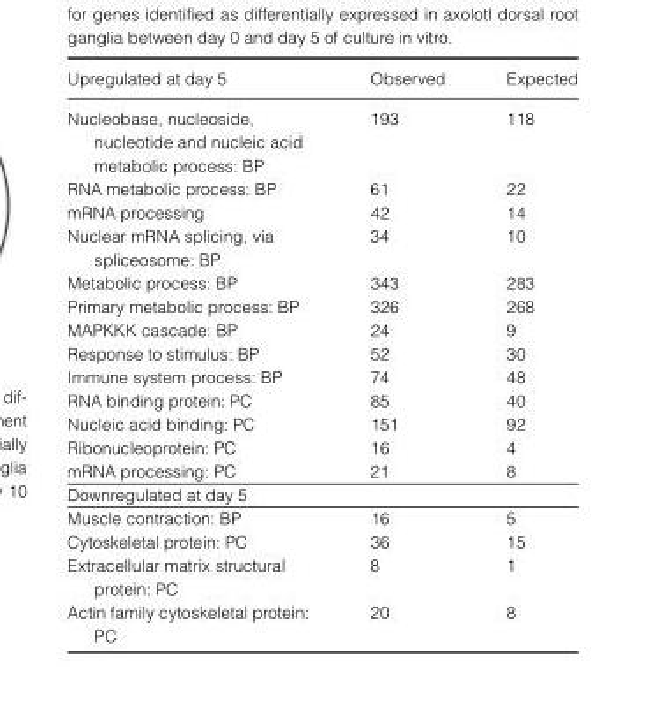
<table><thead><tr><td>Upregulated at day 5</td><td>Observed</td><td>Expected</td></tr></thead><tbody><tr><td>Nucleobase, nucleoside, nucleotide and nucleic acid metabolic process: BP</td><td>193</td><td>118</td></tr><tr><td>RNA metabolic process: BP</td><td>61</td><td>22</td></tr><tr><td>mRNA processing</td><td>42</td><td>14</td></tr><tr><td>Nuclear mRNA splicing, via spliceosome: BP</td><td>34</td><td>10</td></tr><tr><td>Metabolic process: BP</td><td>343</td><td>283</td></tr><tr><td>Primary metabolic process: BP</td><td>326</td><td>268</td></tr><tr><td>MAPKKK cascade: BP</td><td>24</td><td>9</td></tr><tr><td>Response to stimulus: BP</td><td>52</td><td>30</td></tr><tr><td>Immune system process: BP</td><td>74</td><td>48</td></tr><tr><td>RNA binding protein: PC</td><td>85</td><td>40</td></tr><tr><td>Nucleic acid binding: PC</td><td>151</td><td>92</td></tr><tr><td>Ribonucleoprotein: PC</td><td>16</td><td>4</td></tr><tr><td>mRNA processing: PC</td><td>21</td><td>8</td></tr><tr><td colspan="3">Downregulated at day 5</td></tr><tr><td>Muscle contraction: BP</td><td>16</td><td>5</td></tr><tr><td>Cytoskeletal protein: PC</td><td>36</td><td>15</td></tr><tr><td>Extracellular matrix structural protein: PC</td><td>8</td><td>1</td></tr><tr><td>Actin family cytoskeletal protein: PC</td><td>20</td><td>8</td></tr></tbody></table>